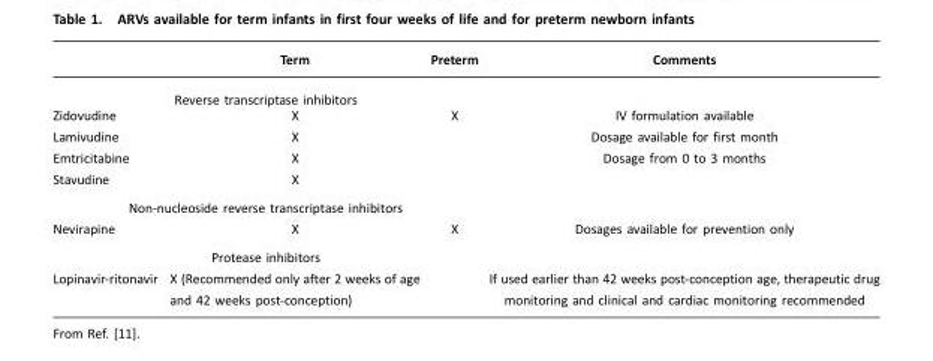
<table><thead><tr><td></td><td>Term</td><td>Preterm</td><td>Comments</td></tr></thead><tbody><tr><td colspan="4">Reverse transcriptase inhibitors</td></tr><tr><td>Zidovudine</td><td>X</td><td>X</td><td>IV formulation available</td></tr><tr><td>Lamivudine</td><td>X</td><td></td><td>Dosage available for first month</td></tr><tr><td>Emtricitabine</td><td>X</td><td></td><td>Dosage from 0 to 3 months</td></tr><tr><td>Stavudine</td><td>X</td><td></td><td></td></tr><tr><td colspan="4">Non-nucleoside reverse transcriptase inhibitors</td></tr><tr><td>Nevirapine</td><td>X</td><td>X</td><td>Dosages available for prevention only</td></tr><tr><td colspan="4">Protease inhibitors</td></tr><tr><td>Lopinavir-ritonavir</td><td>X (Recommended only after 2 weeks of age and 42 weeks post-conception)</td><td></td><td>If used earlier than 42 weeks post-conception age, therapeutic drug monitoring and clinical and cardiac monitoring recommended</td></tr></tbody></table>